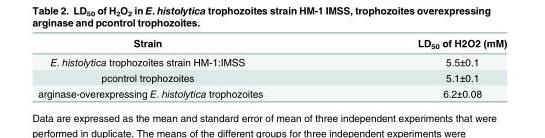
<table><thead><tr><td>Strain</td><td>LD<sub>50</sub> of H2O2 (mM)</td></tr></thead><tbody><tr><td>E. histolytica trophozoites strain HM-1:IMSS</td><td>5.5±0.1</td></tr><tr><td>pcontrol trophozoites</td><td>5.1±0.1</td></tr><tr><td>arginase-overexpressing E. histolytica trophozoites</td><td>6.2±0.08</td></tr></tbody></table>